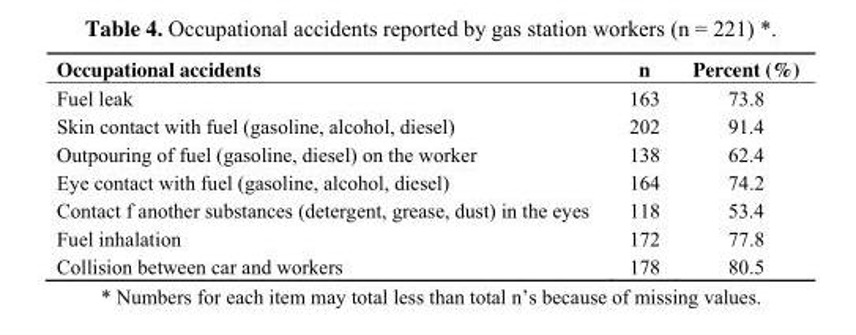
<table><thead><tr><td>Occupational accidents</td><td>n</td><td>Percent (%)</td></tr></thead><tbody><tr><td>Fuel leak</td><td>163</td><td>73.8</td></tr><tr><td>Skin contact with fuel (gasoline, alcohol, diesel)</td><td>202</td><td>91.4</td></tr><tr><td>Outpouring of fuel (gasoline, diesel) on the worker</td><td>138</td><td>62.4</td></tr><tr><td>Eye contact with fuel (gasoline, alcohol, diesel)</td><td>164</td><td>74.2</td></tr><tr><td>Contact f another substances (detergent, grease, dust) in the eyes</td><td>118</td><td>53.4</td></tr><tr><td>Fuel inhalation</td><td>172</td><td>77.8</td></tr><tr><td>Collision between car and workers</td><td>178</td><td>80.5</td></tr></tbody></table>